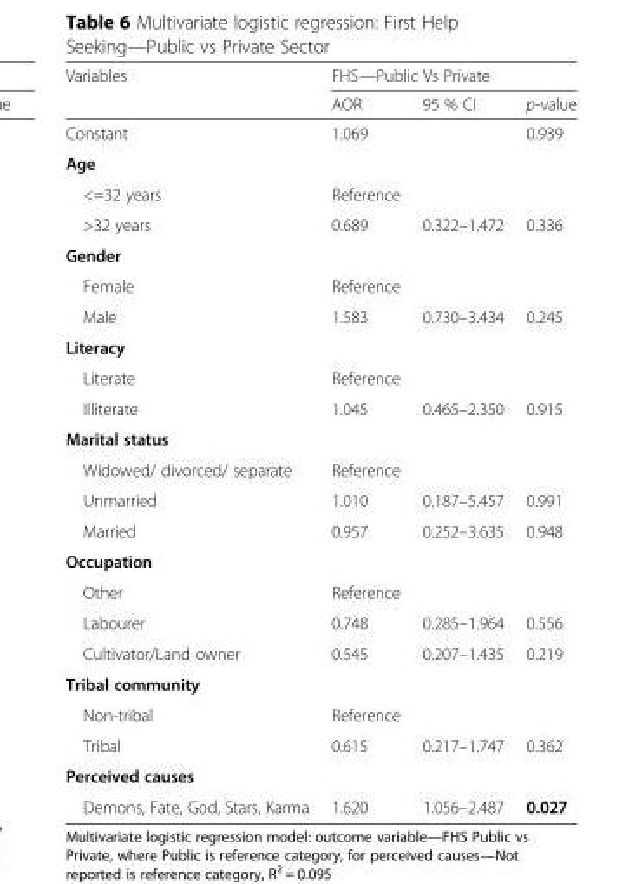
<table><thead><tr><td rowspan="2">Variables</td><td colspan="3">FHS—Public Vs Private</td></tr><tr><td>AOR</td><td>95 % CI</td><td>p-value</td></tr></thead><tbody><tr><td>Constant</td><td>1.069</td><td></td><td>0.939</td></tr><tr><td colspan="4">Age</td></tr><tr><td>&lt;=32 years</td><td>Reference</td><td></td><td></td></tr><tr><td>&gt;32 years</td><td>0.689</td><td>0.322–1.472</td><td>0.336</td></tr><tr><td colspan="4">Gender</td></tr><tr><td>Female</td><td>Reference</td><td></td><td></td></tr><tr><td>Male</td><td>1.583</td><td>0.730–3.434</td><td>0.245</td></tr><tr><td colspan="4">Literacy</td></tr><tr><td>Literate</td><td>Reference</td><td></td><td></td></tr><tr><td>Illiterate</td><td>1.045</td><td>0.465–2.350</td><td>0.915</td></tr><tr><td colspan="4">Marital status</td></tr><tr><td>Widowed/ divorced/ separate</td><td>Reference</td><td></td><td></td></tr><tr><td>Unmarried</td><td>1.010</td><td>0.187–5.457</td><td>0.991</td></tr><tr><td>Married</td><td>0.957</td><td>0.252–3.635</td><td>0.948</td></tr><tr><td colspan="4">Occupation</td></tr><tr><td>Other</td><td>Reference</td><td></td><td></td></tr><tr><td>Labourer</td><td>0.748</td><td>0.285–1.964</td><td>0.556</td></tr><tr><td>Cultivator/Land owner</td><td>0.545</td><td>0.207–1.435</td><td>0.219</td></tr><tr><td colspan="4">Tribal community</td></tr><tr><td>Non-tribal</td><td>Reference</td><td></td><td></td></tr><tr><td>Tribal</td><td>0.615</td><td>0.217–1.747</td><td>0.362</td></tr><tr><td colspan="4">Perceived causes</td></tr><tr><td>Demons, Fate, God, Stars, Karma</td><td>1.620</td><td>1.056–2.487</td><td>0.027</td></tr></tbody></table>